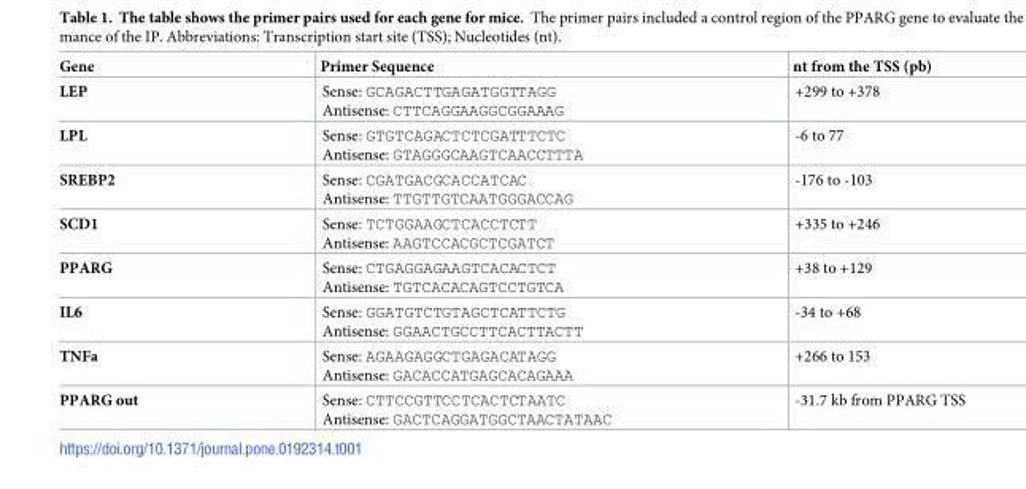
<table><thead><tr><td>Gene</td><td>Primer Sequence</td><td>nt from the TSS (pb)</td></tr></thead><tbody><tr><td>LEP</td><td>Sense: GCAGACTTGAGATGGTTAGG Antisense: CTTCAGGAAGGCGGAAAG</td><td>+299 to +378</td></tr><tr><td>LPL</td><td>Sense: GTGTCAGACTCTCGATTTCTC Antisense: GTAGGGCAAGTCAACCTTTA</td><td>-6 to 77</td></tr><tr><td>SREBP2</td><td>Sense: CGATGACGCACCATCAC Antisense: TTGTTGTCAATGGGACCAG</td><td>-176 to -103</td></tr><tr><td>SCD1</td><td>Sense: TCTGGAAGCTCACCTCTT Antisense: AAGTCCACGCTCGATCT</td><td>+335 to +246</td></tr><tr><td>PPARG</td><td>Sense: CTGAGGAGAAGTCACACTCT Antisense: TGTCACACAGTCCTGTCA</td><td>+38 to +129</td></tr><tr><td>IL6</td><td>Sense: GGATGTCTGTAGCTCATTCTG Antisense: GGAACTGCCTTCACTTACTT</td><td>-34 to +68</td></tr><tr><td>TNFa</td><td>Sense: AGAAGAGGCTGAGACATAGG Antisense: GACACCATGAGCACAGAAA</td><td>+266 to 153</td></tr><tr><td>PPARG out</td><td>Sense: CTTCCGTTCCTCACTCTAATC Antisense: GACTCAGGATGGCTAACTATAAC</td><td>-31.7 kb from PPARG TSS</td></tr></tbody></table>